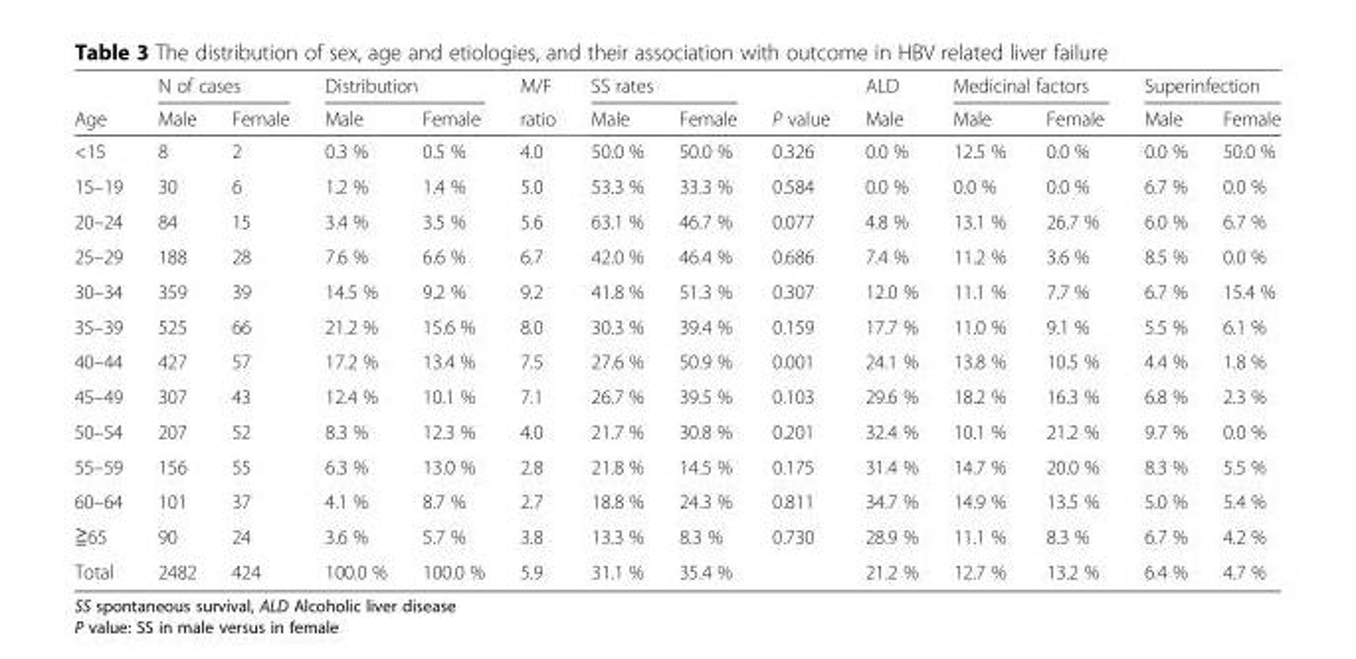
<table><thead><tr><td rowspan="2">Age</td><td colspan="2">N of cases</td><td colspan="2">Distribution</td><td rowspan="2">M/F ratio</td><td colspan="2">SS rates</td><td rowspan="2">P value</td><td rowspan="2">ALD Male</td><td colspan="2">Medicinal factors</td><td colspan="2">Superinfection</td></tr><tr><td>Male</td><td>Female</td><td>Male</td><td>Female</td><td>Male</td><td>Female</td><td>Male</td><td>Female</td><td>Male</td><td>Female</td></tr></thead><tbody><tr><td>&lt;15</td><td>8</td><td>2</td><td>0.3 %</td><td>0.5 %</td><td>4.0</td><td>50.0 %</td><td>50.0 %</td><td>0.326</td><td>0.0 %</td><td>12.5 %</td><td>0.0 %</td><td>0.0 %</td><td>50.0 %</td></tr><tr><td>15–19</td><td>30</td><td>6</td><td>1.2 %</td><td>1.4 %</td><td>5.0</td><td>53.3 %</td><td>33.3 %</td><td>0.584</td><td>0.0 %</td><td>0.0 %</td><td>0.0 %</td><td>6.7 %</td><td>0.0 %</td></tr><tr><td>20–24</td><td>84</td><td>15</td><td>3.4 %</td><td>3.5 %</td><td>5.6</td><td>63.1 %</td><td>46.7 %</td><td>0.077</td><td>4.8 %</td><td>13.1 %</td><td>26.7 %</td><td>6.0 %</td><td>6.7 %</td></tr><tr><td>25–29</td><td>188</td><td>28</td><td>7.6 %</td><td>6.6 %</td><td>6.7</td><td>42.0 %</td><td>46.4 %</td><td>0.686</td><td>7.4 %</td><td>11.2 %</td><td>3.6 %</td><td>8.5 %</td><td>0.0 %</td></tr><tr><td>30–34</td><td>359</td><td>39</td><td>14.5 %</td><td>9.2 %</td><td>9.2</td><td>41.8 %</td><td>51.3 %</td><td>0.307</td><td>12.0 %</td><td>11.1 %</td><td>7.7 %</td><td>6.7 %</td><td>15.4 %</td></tr><tr><td>35–39</td><td>525</td><td>66</td><td>21.2 %</td><td>15.6 %</td><td>8.0</td><td>30.3 %</td><td>39.4 %</td><td>0.159</td><td>17.7 %</td><td>11.0 %</td><td>9.1 %</td><td>5.5 %</td><td>6.1 %</td></tr><tr><td>40–44</td><td>427</td><td>57</td><td>17.2 %</td><td>13.4 %</td><td>7.5</td><td>27.6 %</td><td>50.9 %</td><td>0.001</td><td>24.1 %</td><td>13.8 %</td><td>10.5 %</td><td>4.4 %</td><td>1.8 %</td></tr><tr><td>45–49</td><td>307</td><td>43</td><td>12.4 %</td><td>10.1 %</td><td>7.1</td><td>26.7 %</td><td>39.5 %</td><td>0.103</td><td>29.6 %</td><td>18.2 %</td><td>16.3 %</td><td>6.8 %</td><td>2.3 %</td></tr><tr><td>50–54</td><td>207</td><td>52</td><td>8.3 %</td><td>12.3 %</td><td>4.0</td><td>21.7 %</td><td>30.8 %</td><td>0.201</td><td>32.4 %</td><td>10.1 %</td><td>21.2 %</td><td>9.7 %</td><td>0.0 %</td></tr><tr><td>55–59</td><td>156</td><td>55</td><td>6.3 %</td><td>13.0 %</td><td>2.8</td><td>21.8 %</td><td>14.5 %</td><td>0.175</td><td>31.4 %</td><td>14.7 %</td><td>20.0 %</td><td>8.3 %</td><td>5.5 %</td></tr><tr><td>60–64</td><td>101</td><td>37</td><td>4.1 %</td><td>8.7 %</td><td>2.7</td><td>18.8 %</td><td>24.3 %</td><td>0.811</td><td>34.7 %</td><td>14.9 %</td><td>13.5 %</td><td>5.0 %</td><td>5.4 %</td></tr><tr><td>≧65</td><td>90</td><td>24</td><td>3.6 %</td><td>5.7 %</td><td>3.8</td><td>13.3 %</td><td>8.3 %</td><td>0.730</td><td>28.9 %</td><td>11.1 %</td><td>8.3 %</td><td>6.7 %</td><td>4.2 %</td></tr><tr><td>Total</td><td>2482</td><td>424</td><td>100.0 %</td><td>100.0 %</td><td>5.9</td><td>31.1 %</td><td>35.4 %</td><td></td><td>21.2 %</td><td>12.7 %</td><td>13.2 %</td><td>6.4 %</td><td>4.7 %</td></tr></tbody></table>